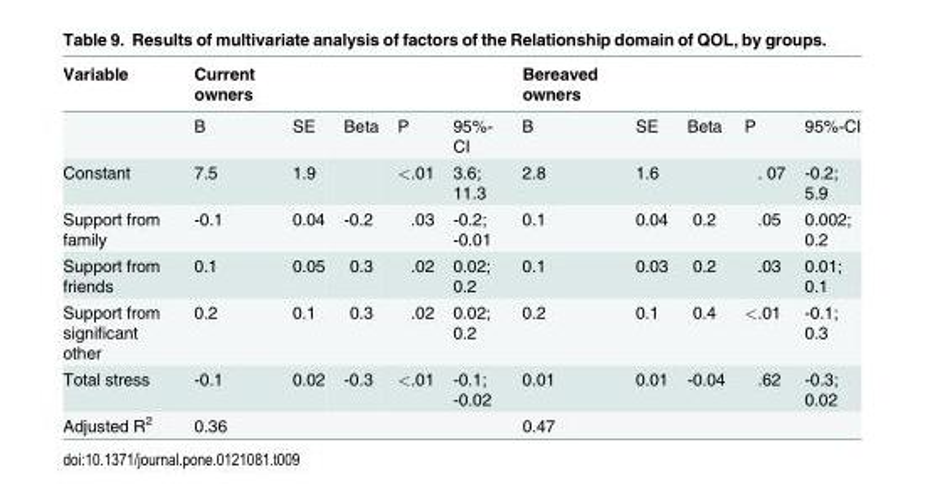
<table><thead><tr><td>Variable</td><td>Current owners</td><td></td><td></td><td></td><td></td><td>Bereaved owners</td><td></td><td></td><td></td><td></td></tr></thead><tbody><tr><td></td><td>B</td><td>SE</td><td>Beta</td><td>P</td><td>95%- CI</td><td>B</td><td>SE</td><td>Beta</td><td>P</td><td>95%-CI</td></tr><tr><td>Constant</td><td>7.5</td><td>1.9</td><td></td><td>&lt;.01</td><td>3.6; 11.3</td><td>2.8</td><td>1.6</td><td></td><td>. 07</td><td>-0.2; 5.9</td></tr><tr><td>Support from family</td><td>-0.1</td><td>0.04</td><td>-0.2</td><td>.03</td><td>-0.2; -0.01</td><td>0.1</td><td>0.04</td><td>0.2</td><td>.05</td><td>0.002; 0.2</td></tr><tr><td>Support from friends</td><td>0.1</td><td>0.05</td><td>0.3</td><td>.02</td><td>0.02; 0.2</td><td>0.1</td><td>0.03</td><td>0.2</td><td>.03</td><td>0.01; 0.1</td></tr><tr><td>Support from significant other</td><td>0.2</td><td>0.1</td><td>0.3</td><td>.02</td><td>0.02; 0.2</td><td>0.2</td><td>0.1</td><td>0.4</td><td>&lt;.01</td><td>-0.1; 0.3</td></tr><tr><td>Total stress</td><td>-0.1</td><td>0.02</td><td>-0.3</td><td>&lt;.01</td><td>-0.1; -0.02</td><td>0.01</td><td>0.01</td><td>-0.04</td><td>.62</td><td>-0.3; 0.02</td></tr><tr><td>Adjusted R<sup>2</sup></td><td>0.36</td><td></td><td></td><td></td><td></td><td>0.47</td><td></td><td></td><td></td><td></td></tr></tbody></table>